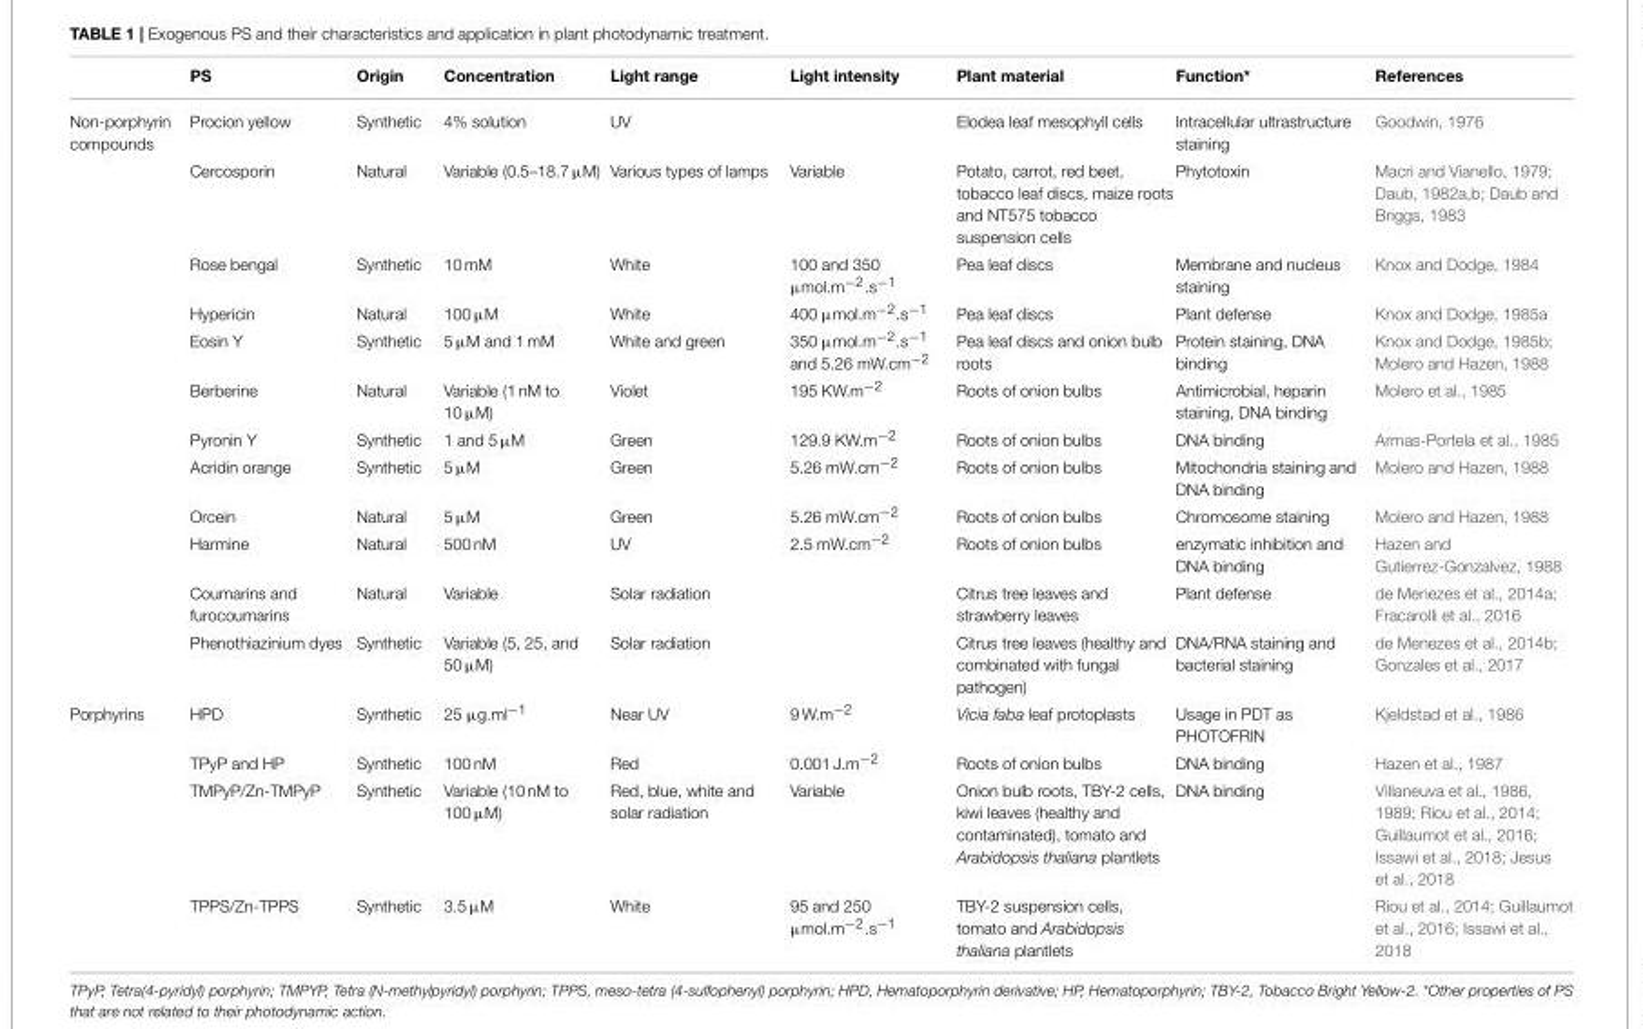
<table><thead><tr><td></td><td>PS</td><td>Origin</td><td>Concentration</td><td>Light range</td><td>Light intensity</td><td>Plant material</td><td>Function*</td><td>References</td></tr></thead><tbody><tr><td rowspan="12">Non-porphyrin compounds</td><td>Procion yellow</td><td>Synthetic</td><td>4% solution</td><td>UV</td><td></td><td>Elodea leaf mesophyll cells</td><td>Intracellular ultrastructure staining</td><td>Goodwin, 1976</td></tr><tr><td>Cercosporin</td><td>Natural</td><td>Variable (0.5–18.7 µM)</td><td>Various types of lamps</td><td>Variable</td><td>Potato, carrot, red beet, tobacco leaf discs, maize roots and NT575 tobacco suspension cells</td><td>Phytotoxin</td><td>Macri and Vianello, 1979; Daub, 1982a,b; Daub and Briggs, 1983</td></tr><tr><td>Rose bengal</td><td>Synthetic</td><td>10 mM</td><td>White</td><td>100 and 350 µmol.m<sup>−2</sup>.s<sup>−1</sup></td><td>Pea leaf discs</td><td>Membrane and nucleus staining</td><td>Knox and Dodge, 1984</td></tr><tr><td>Hypericin</td><td>Natural</td><td>100 µM</td><td>White</td><td>400 µmol.m<sup>−2</sup>.s<sup>−1</sup></td><td>Pea leaf discs</td><td>Plant defense</td><td>Knox and Dodge, 1985a</td></tr><tr><td>Eosin Y</td><td>Synthetic</td><td>5 µM and 1 mM</td><td>White and green</td><td>350 µmol.m<sup>−2</sup>.s<sup>−1</sup> and 5.26 mW.cm<sup>−2</sup></td><td>Pea leaf discs and onion bulb roots</td><td>Protein staining, DNA binding</td><td>Knox and Dodge, 1985b; Molero and Hazen, 1988</td></tr><tr><td>Berberine</td><td>Natural</td><td>Variable (1 nM to 10 µM)</td><td>Violet</td><td>195 KW.m<sup>−2</sup></td><td>Roots of onion bulbs</td><td>Antimicrobial, heparin staining, DNA binding</td><td>Molero et al., 1985</td></tr><tr><td>Pyronin Y</td><td>Synthetic</td><td>1 and 5 µM</td><td>Green</td><td>129.9 KW.m<sup>−2</sup></td><td>Roots of onion bulbs</td><td>DNA binding</td><td>Armas-Portela et al., 1985</td></tr><tr><td>Acridin orange</td><td>Synthetic</td><td>5 µM</td><td>Green</td><td>5.26 mW.cm<sup>−2</sup></td><td>Roots of onion bulbs</td><td>Mitochondria staining and DNA binding</td><td>Molero and Hazen, 1988</td></tr><tr><td>Orcein</td><td>Natural</td><td>5 µM</td><td>Green</td><td>5.26 mW.cm<sup>−2</sup></td><td>Roots of onion bulbs</td><td>Chromosome staining</td><td>Molero and Hazen, 1988</td></tr><tr><td>Harmine</td><td>Natural</td><td>500 nM</td><td>UV</td><td>2.5 mW.cm<sup>−2</sup></td><td>Roots of onion bulbs</td><td>enzymatic inhibition and DNA binding</td><td>Hazen and Gutierrez-Gonzalvez, 1988</td></tr><tr><td>Coumarins and furocoumarins</td><td>Natural</td><td>Variable</td><td>Solar radiation</td><td></td><td>Citrus tree leaves and strawberry leaves</td><td>Plant defense</td><td>de Menezes et al., 2014a; Fracarolli et al., 2016</td></tr><tr><td>Phenothiazinium dyes</td><td>Synthetic</td><td>Variable (5, 25, and 50 µM)</td><td>Solar radiation</td><td></td><td>Citrus tree leaves (healthy and combinated with fungal pathogen)</td><td>DNA/RNA staining and bacterial staining</td><td>de Menezes et al., 2014b; Gonzales et al., 2017</td></tr><tr><td rowspan="4">Porphyrins</td><td>HPD</td><td>Synthetic</td><td>25 µg.ml<sup>−1</sup></td><td>Near UV</td><td>9 W.m<sup>−2</sup></td><td>Vicia faba leaf protoplasts</td><td>Usage in PDT as PHOTOFRIN</td><td>Kjeldstad et al., 1986</td></tr><tr><td>TPyP and HP</td><td>Synthetic</td><td>100 nM</td><td>Red</td><td>0.001 J.m<sup>−2</sup></td><td>Roots of onion bulbs</td><td>DNA binding</td><td>Hazen et al., 1987</td></tr><tr><td>TMPyP/Zn-TMPyP</td><td>Synthetic</td><td>Variable (10 nM to 100 µM)</td><td>Red, blue, white and solar radiation</td><td>Variable</td><td>Onion bulb roots, TBY-2 cells, kiwi leaves (healthy and contaminated), tomato and Arabidopsis thaliana plantlets</td><td>DNA binding</td><td>Villaneuva et al., 1986, 1989; Riou et al., 2014; Guillaumot et al., 2016; Issawi et al., 2018; Jesus et al., 2018</td></tr><tr><td>TPPS/Zn-TPPS</td><td>Synthetic</td><td>3.5 µM</td><td>White</td><td>95 and 250 µmol.m<sup>−2</sup>.s<sup>−1</sup></td><td>TBY-2 suspension cells, tomato and Arabidopsis thaliana plantlets</td><td></td><td>Riou et al., 2014; Guillaumot et al., 2016; Issawi et al., 2018</td></tr></tbody></table>